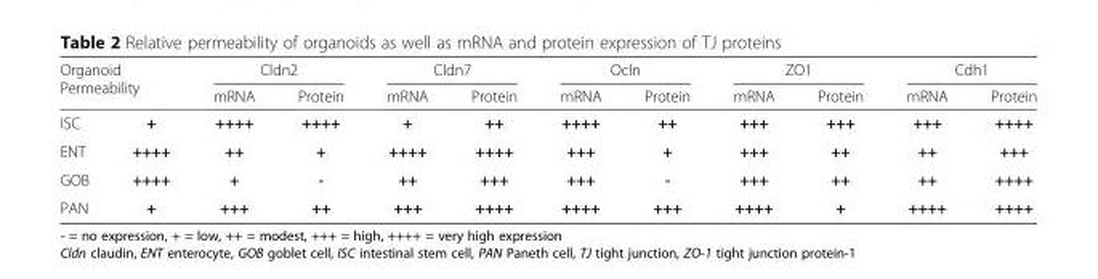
<table><thead><tr><td rowspan="2" colspan="2">Organoid Permeability</td><td colspan="2">Cldn2</td><td colspan="2">Cldn7</td><td colspan="2">Ocln</td><td colspan="2">ZO1</td><td colspan="2">Cdh1</td></tr><tr><td rowspan="2">mRNA ++++</td><td rowspan="2">Protein ++++</td><td rowspan="2">mRNA +</td><td rowspan="2">Protein ++</td><td rowspan="2">mRNA ++++</td><td rowspan="2">Protein ++</td><td rowspan="2">mRNA +++</td><td rowspan="2">Protein +++</td><td rowspan="2">mRNA +++</td><td rowspan="2">Protein ++++</td></tr><tr><td>ISC</td><td>+</td></tr></thead><tbody><tr><td>ENT</td><td>++++</td><td>++</td><td>+</td><td>++++</td><td>++++</td><td>+++</td><td>+</td><td>+++</td><td>++</td><td>++</td><td>+++</td></tr><tr><td>GOB</td><td>++++</td><td>+</td><td>-</td><td>++</td><td>+++</td><td>+++</td><td>-</td><td>+++</td><td>++</td><td>++</td><td>++++</td></tr><tr><td>PAN</td><td>+</td><td>+++</td><td>++</td><td>+++</td><td>++++</td><td>++++</td><td>+++</td><td>++++</td><td>+</td><td>++++</td><td>++++</td></tr></tbody></table>